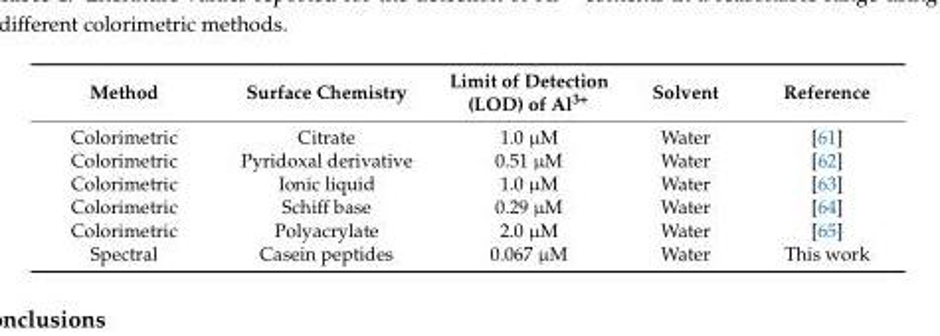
<table><thead><tr><td>Method</td><td>Surface Chemistry</td><td>Limit of Detection (LOD) of Al<sup>3+</sup></td><td>Solvent</td><td>Reference</td></tr></thead><tbody><tr><td>Colorimetric</td><td>Citrate</td><td>1.0 µM</td><td>Water</td><td>[61]</td></tr><tr><td>Colorimetric</td><td>Pyridoxal derivative</td><td>0.51 µM</td><td>Water</td><td>[62]</td></tr><tr><td>Colorimetric</td><td>Ionic liquid</td><td>1.0 µM</td><td>Water</td><td>[63]</td></tr><tr><td>Colorimetric</td><td>Schiff base</td><td>0.29 µM</td><td>Water</td><td>[64]</td></tr><tr><td>Colorimetric</td><td>Polyacrylate</td><td>2.0 µM</td><td>Water</td><td>[65]</td></tr><tr><td>Spectral</td><td>Casein peptides</td><td>0.067 µM</td><td>Water</td><td>This work</td></tr></tbody></table>